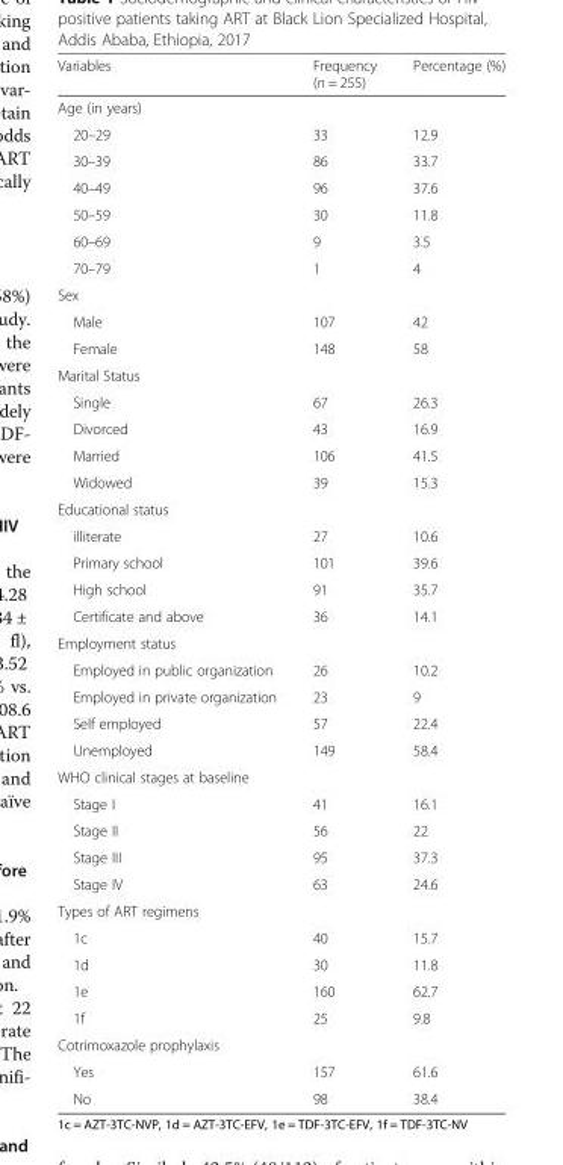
<table><thead><tr><td>Variables</td><td>Frequency (n = 255)</td><td>Percentage (%)</td></tr></thead><tbody><tr><td colspan="3">Age (in years)</td></tr><tr><td>20–29</td><td>33</td><td>12.9</td></tr><tr><td>30–39</td><td>86</td><td>33.7</td></tr><tr><td>40–49</td><td>96</td><td>37.6</td></tr><tr><td>50–59</td><td>30</td><td>11.8</td></tr><tr><td>60–69</td><td>9</td><td>3.5</td></tr><tr><td>70–79</td><td>1</td><td>4</td></tr><tr><td colspan="3">Sex</td></tr><tr><td>Male</td><td>107</td><td>42</td></tr><tr><td>Female</td><td>148</td><td>58</td></tr><tr><td colspan="3">Marital Status</td></tr><tr><td>Single</td><td>67</td><td>26.3</td></tr><tr><td>Divorced</td><td>43</td><td>16.9</td></tr><tr><td>Married</td><td>106</td><td>41.5</td></tr><tr><td>Widowed</td><td>39</td><td>15.3</td></tr><tr><td colspan="3">Educational status</td></tr><tr><td>illiterate</td><td>27</td><td>10.6</td></tr><tr><td>Primary school</td><td>101</td><td>39.6</td></tr><tr><td>High school</td><td>91</td><td>35.7</td></tr><tr><td>Certificate and above</td><td>36</td><td>14.1</td></tr><tr><td colspan="3">Employment status</td></tr><tr><td>Employed in public organization</td><td>26</td><td>10.2</td></tr><tr><td>Employed in private organization</td><td>23</td><td>9</td></tr><tr><td>Self employed</td><td>57</td><td>22.4</td></tr><tr><td>Unemployed</td><td>149</td><td>58.4</td></tr><tr><td colspan="3">WHO clinical stages at baseline</td></tr><tr><td>Stage I</td><td>41</td><td>16.1</td></tr><tr><td>Stage II</td><td>56</td><td>22</td></tr><tr><td>Stage III</td><td>95</td><td>37.3</td></tr><tr><td>Stage IV</td><td>63</td><td>24.6</td></tr><tr><td colspan="3">Types of ART regimens</td></tr><tr><td>1c</td><td>40</td><td>15.7</td></tr><tr><td>1d</td><td>30</td><td>11.8</td></tr><tr><td>1e</td><td>160</td><td>62.7</td></tr><tr><td>1f</td><td>25</td><td>9.8</td></tr><tr><td colspan="3">Cotrimoxazole prophylaxis</td></tr><tr><td>Yes</td><td>157</td><td>61.6</td></tr><tr><td>No</td><td>98</td><td>38.4</td></tr></tbody></table>